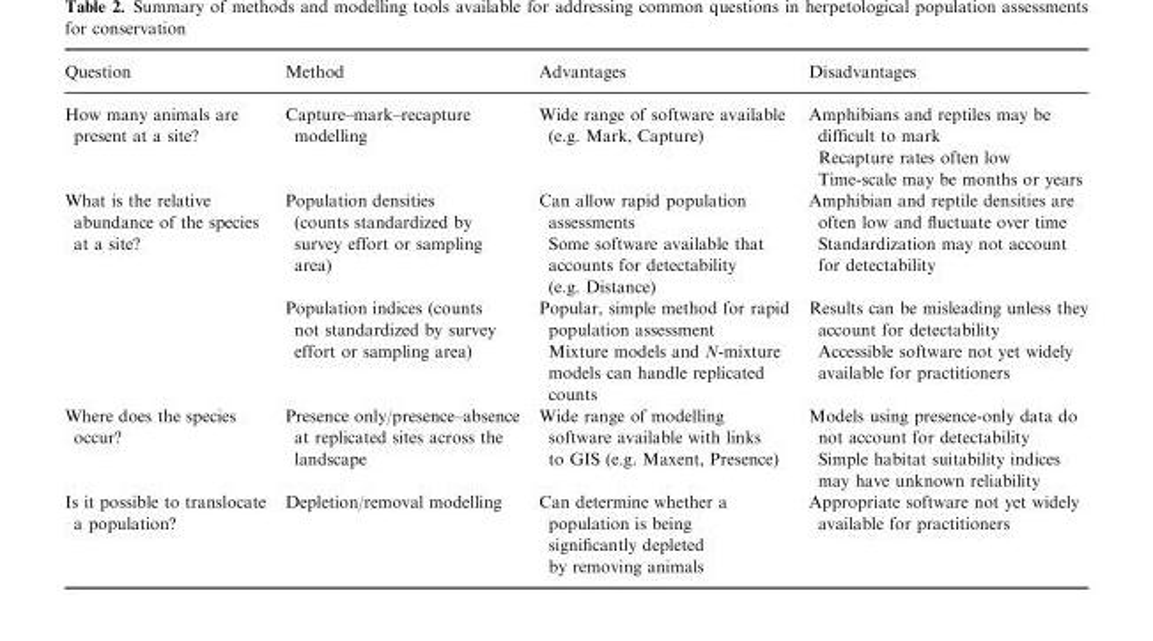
<table><thead><tr><td>Question</td><td>Method</td><td>Advantages</td><td>Disadvantages</td></tr></thead><tbody><tr><td>How many animals are present at a site?</td><td>Capture–mark–recapture modelling</td><td>Wide range of software available (e.g. Mark, Capture)</td><td>Amphibians and reptiles may be difficult to mark Recapture rates often low Time-scale may be months or years</td></tr><tr><td rowspan="2">What is the relative abundance of the species at a site?</td><td>Population densities (counts standardized by survey effort or sampling area)</td><td>Can allow rapid population assessments Some software available that accounts for detectability (e.g. Distance)</td><td>Amphibian and reptile densities are often low and fluctuate over time Standardization may not account for detectability</td></tr><tr><td>Population indices (counts not standardized by survey effort or sampling area)</td><td>Popular, simple method for rapid population assessment Mixture models and N-mixture models can handle replicated counts</td><td>Results can be misleading unless they account for detectability Accessible software not yet widely available for practitioners</td></tr><tr><td>Where does the species occur?</td><td>Presence only/presence–absence at replicated sites across the landscape</td><td>Wide range of modelling software available with links to GIS (e.g. Maxent, Presence)</td><td>Models using presence-only data do not account for detectability Simple habitat suitability indices may have unknown reliability</td></tr><tr><td>Is it possible to translocate a population?</td><td>Depletion/removal modelling</td><td>Can determine whether a population is being significantly depleted by removing animals</td><td>Appropriate software not yet widely available for practitioners</td></tr></tbody></table>